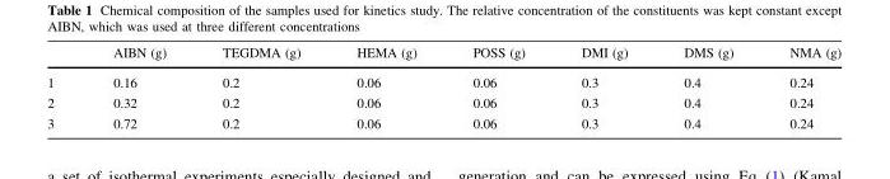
<table><thead><tr><td></td><td>AIBN (g)</td><td>TEGDMA (g)</td><td>HEMA (g)</td><td>POSS (g)</td><td>DMI (g)</td><td>DMS (g)</td><td>NMA (g)</td></tr></thead><tbody><tr><td>1</td><td>0.16</td><td>0.2</td><td>0.06</td><td>0.06</td><td>0.3</td><td>0.4</td><td>0.24</td></tr><tr><td>2</td><td>0.32</td><td>0.2</td><td>0.06</td><td>0.06</td><td>0.3</td><td>0.4</td><td>0.24</td></tr><tr><td>3</td><td>0.72</td><td>0.2</td><td>0.06</td><td>0.06</td><td>0.3</td><td>0.4</td><td>0.24</td></tr></tbody></table>